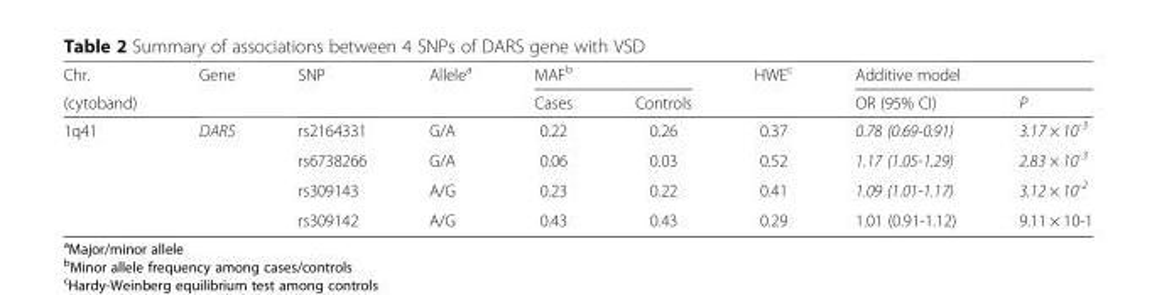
<table><thead><tr><td rowspan="2">Chr. (cytoband)</td><td rowspan="2">Gene</td><td rowspan="2">SNP</td><td rowspan="2">Allele<sup>a</sup></td><td colspan="2">MAF<sup>b</sup></td><td rowspan="2">HWE<sup>c</sup></td><td colspan="2">Additive model</td></tr><tr><td>Cases</td><td>Controls</td><td>OR (95% CI)</td><td>P</td></tr></thead><tbody><tr><td rowspan="4">1q41</td><td>DARS</td><td>rs2164331</td><td>G/A</td><td>0.22</td><td>0.26</td><td>0.37</td><td>0.78 (0.69-0.91)</td><td>3.17 × 10<sup>-3</sup></td></tr><tr><td></td><td>rs6738266</td><td>G/A</td><td>0.06</td><td>0.03</td><td>0.52</td><td>1.17 (1.05-1.29)</td><td>2.83 × 10<sup>-3</sup></td></tr><tr><td></td><td>rs309143</td><td>A/G</td><td>0.23</td><td>0.22</td><td>0.41</td><td>1.09 (1.01-1.17)</td><td>3.12 × 10<sup>-2</sup></td></tr><tr><td></td><td>rs309142</td><td>A/G</td><td>0.43</td><td>0.43</td><td>0.29</td><td>1.01 (0.91-1.12)</td><td>9.11 × 10-1</td></tr></tbody></table>